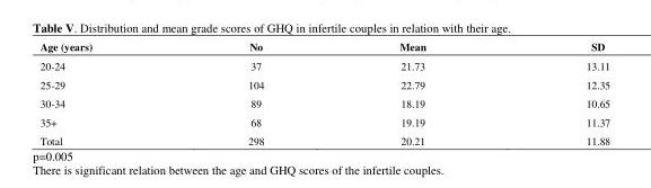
<table><thead><tr><td>Age (years)</td><td>No</td><td>Mean</td><td>SD</td></tr></thead><tbody><tr><td>20-24</td><td>37</td><td>21.73</td><td>13.11</td></tr><tr><td>25-29</td><td>104</td><td>22.79</td><td>12.35</td></tr><tr><td>30-34</td><td>89</td><td>18.19</td><td>10.65</td></tr><tr><td>35+</td><td>68</td><td>19.19</td><td>11.37</td></tr><tr><td>Total</td><td>298</td><td>20.21</td><td>11.88</td></tr></tbody></table>